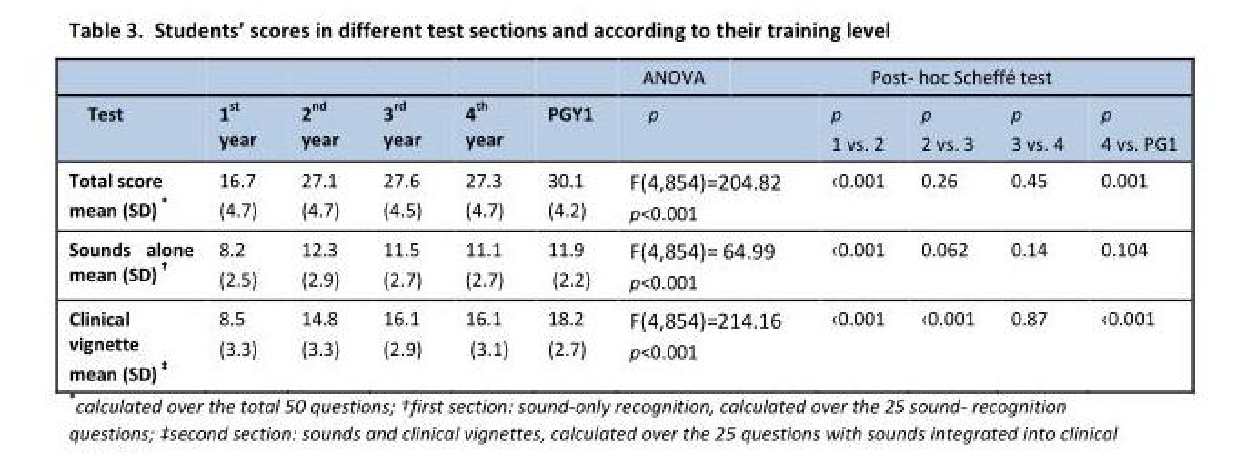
<table><thead><tr><td rowspan="2">Test</td><td rowspan="2">1<sup>st</sup> year</td><td rowspan="2">2<sup>nd</sup> year</td><td rowspan="2">3<sup>rd</sup> year</td><td rowspan="2">4<sup>th</sup> year</td><td rowspan="2">PGY1</td><td rowspan="2">ANOVA p</td><td colspan="4">Post- hoc Scheffé test</td></tr><tr><td>p 1 vs. 2</td><td>p 2 vs. 3</td><td>p 3 vs. 4</td><td>p 4 vs. PG1</td></tr></thead><tbody><tr><td>Total score mean (SD) *</td><td>16.7 (4.7)</td><td>27.1 (4.7)</td><td>27.6 (4.5)</td><td>27.3 (4.7)</td><td>30.1 (4.2)</td><td>F(4,854)=204.82 p&lt;0.001</td><td>‹0.001</td><td>0.26</td><td>0.45</td><td>0.001</td></tr><tr><td>Sounds alone mean (SD) †</td><td>8.2 (2.5)</td><td>12.3 (2.9)</td><td>11.5 (2.7)</td><td>11.1 (2.7)</td><td>11.9 (2.2)</td><td>F(4,854)= 64.99 p&lt;0.001</td><td>‹0.001</td><td>0.062</td><td>0.14</td><td>0.104</td></tr><tr><td>Clinical vignette mean (SD) ‡</td><td>8.5 (3.3)</td><td>14.8 (3.3)</td><td>16.1 (2.9)</td><td>16.1 (3.1)</td><td>18.2 (2.7)</td><td>F(4,854)=214.16 p&lt;0.001</td><td>‹0.001</td><td>‹0.001</td><td>0.87</td><td>‹0.001</td></tr></tbody></table>